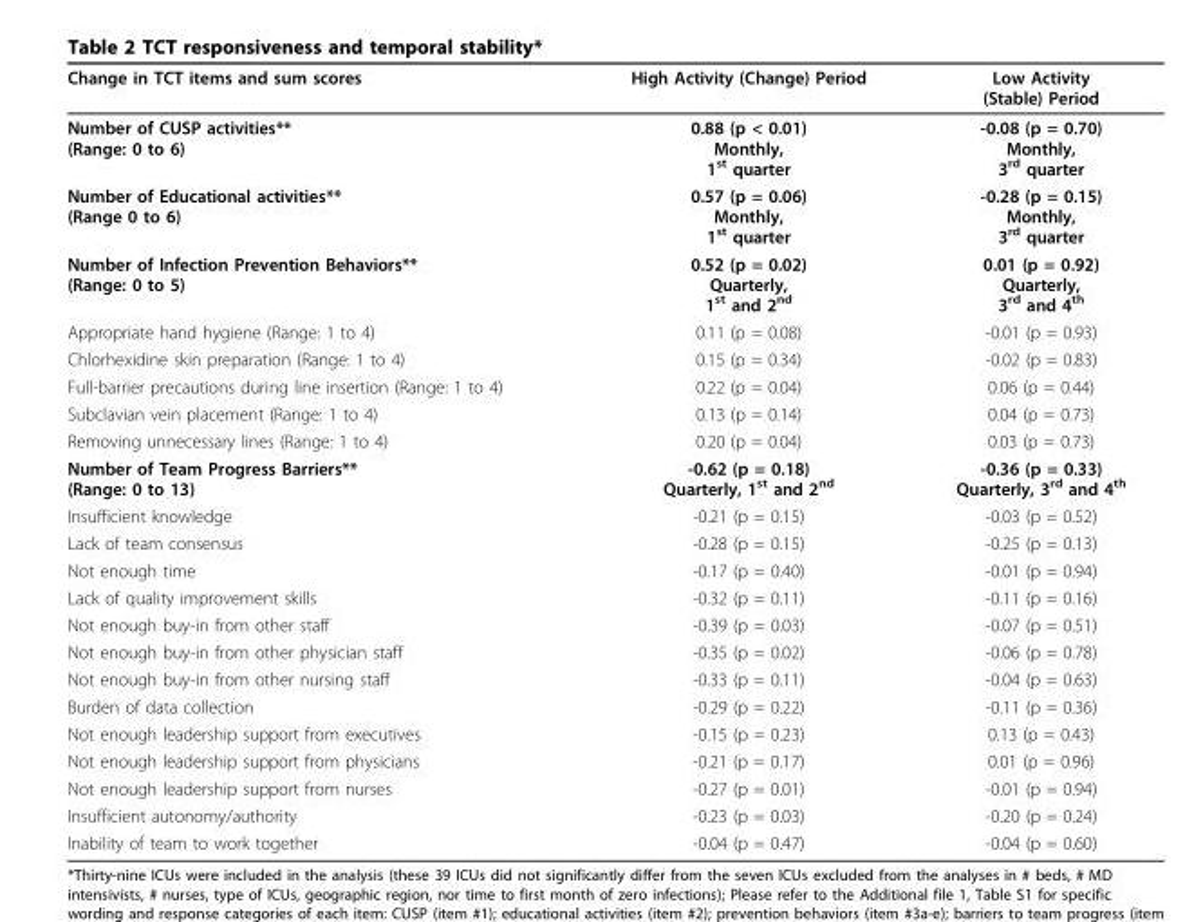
<table><thead><tr><td>Change in TCT items and sum scores</td><td>High Activity (Change) Period</td><td>Low Activity (Stable) Period</td></tr></thead><tbody><tr><td>Number of CUSP activities** (Range: 0 to 6)</td><td>0.88 (p &lt; 0.01) Monthly, 1<sup>st</sup> quarter</td><td>-0.08 (p = 0.70) Monthly, 3<sup>rd</sup> quarter</td></tr><tr><td>Number of Educational activities** (Range 0 to 6)</td><td>0.57 (p = 0.06) Monthly, 1<sup>st</sup> quarter</td><td>-0.28 (p = 0.15) Monthly, 3<sup>rd</sup> quarter</td></tr><tr><td>Number of Infection Prevention Behaviors** (Range: 0 to 5)</td><td>0.52 (p = 0.02) Quarterly, 1<sup>st</sup> and 2<sup>nd</sup></td><td>0.01 (p = 0.92) Quarterly, 3<sup>rd</sup> and 4<sup>th</sup></td></tr><tr><td>Appropriate hand hygiene (Range: 1 to 4)</td><td>0.11 (p = 0.08)</td><td>-0.01 (p = 0.93)</td></tr><tr><td>Chlorhexidine skin preparation (Range: 1 to 4)</td><td>0.15 (p = 0.34)</td><td>-0.02 (p = 0.83)</td></tr><tr><td>Full-barrier precautions during line insertion (Range: 1 to 4)</td><td>0.22 (p = 0.04)</td><td>0.06 (p = 0.44)</td></tr><tr><td>Subclavian vein placement (Range: 1 to 4)</td><td>0.13 (p = 0.14)</td><td>0.04 (p = 0.73)</td></tr><tr><td>Removing unnecessary lines (Range: 1 to 4)</td><td>0.20 (p = 0.04)</td><td>0.03 (p = 0.73)</td></tr><tr><td>Number of Team Progress Barriers** (Range: 0 to 13)</td><td>-0.62 (p = 0.18) Quarterly, 1<sup>st</sup> and 2<sup>nd</sup></td><td>-0.36 (p = 0.33) Quarterly, 3<sup>rd</sup> and 4<sup>th</sup></td></tr><tr><td>Insufficient knowledge</td><td>-0.21 (p = 0.15)</td><td>-0.03 (p = 0.52)</td></tr><tr><td>Lack of team consensus</td><td>-0.28 (p = 0.15)</td><td>-0.25 (p = 0.13)</td></tr><tr><td>Not enough time</td><td>-0.17 (p = 0.40)</td><td>-0.01 (p = 0.94)</td></tr><tr><td>Lack of quality improvement skills</td><td>-0.32 (p = 0.11)</td><td>-0.11 (p = 0.16)</td></tr><tr><td>Not enough buy-in from other staff</td><td>-0.39 (p = 0.03)</td><td>-0.07 (p = 0.51)</td></tr><tr><td>Not enough buy-in from other physician staff</td><td>-0.35 (p = 0.02)</td><td>-0.06 (p = 0.78)</td></tr><tr><td>Not enough buy-in from other nursing staff</td><td>-0.33 (p = 0.11)</td><td>-0.04 (p = 0.63)</td></tr><tr><td>Burden of data collection</td><td>-0.29 (p = 0.22)</td><td>-0.11 (p = 0.36)</td></tr><tr><td>Not enough leadership support from executives</td><td>-0.15 (p = 0.23)</td><td>0.13 (p = 0.43)</td></tr><tr><td>Not enough leadership support from physicians</td><td>-0.21 (p = 0.17)</td><td>0.01 (p = 0.96)</td></tr><tr><td>Not enough leadership support from nurses</td><td>-0.27 (p = 0.01)</td><td>-0.01 (p = 0.94)</td></tr><tr><td>Insufficient autonomy/authority</td><td>-0.23 (p = 0.03)</td><td>-0.20 (p = 0.24)</td></tr><tr><td>Inability of team to work together</td><td>-0.04 (p = 0.47)</td><td>-0.04 (p = 0.60)</td></tr></tbody></table>